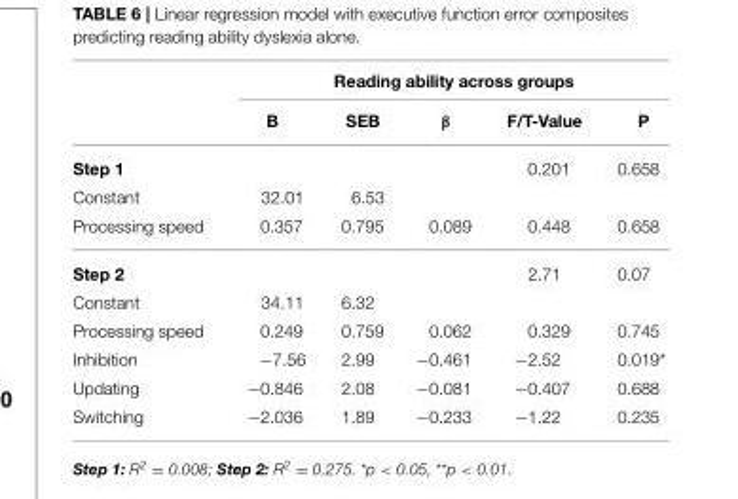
<table><thead><tr><td rowspan="2"></td><td colspan="5">Reading ability across groups</td></tr><tr><td>B</td><td>SEB</td><td>β</td><td>F/T-Value</td><td>P</td></tr></thead><tbody><tr><td>Step 1</td><td></td><td></td><td></td><td>0.201</td><td>0.658</td></tr><tr><td>Constant</td><td>32.01</td><td>6.53</td><td></td><td></td><td></td></tr><tr><td>Processing speed</td><td>0.357</td><td>0.795</td><td>0.089</td><td>0.448</td><td>0.658</td></tr><tr><td>Step 2</td><td></td><td></td><td></td><td>2.71</td><td>0.07</td></tr><tr><td>Constant</td><td>34.11</td><td>6.32</td><td></td><td></td><td></td></tr><tr><td>Processing speed</td><td>0.249</td><td>0.759</td><td>0.062</td><td>0.329</td><td>0.745</td></tr><tr><td>Inhibition</td><td>−7.56</td><td>2.99</td><td>−0.461</td><td>−2.52</td><td>0.019*</td></tr><tr><td>Updating</td><td>−0.846</td><td>2.08</td><td>−0.081</td><td>−0.407</td><td>0.688</td></tr><tr><td>Switching</td><td>−2.036</td><td>1.89</td><td>−0.233</td><td>−1.22</td><td>0.235</td></tr></tbody></table>